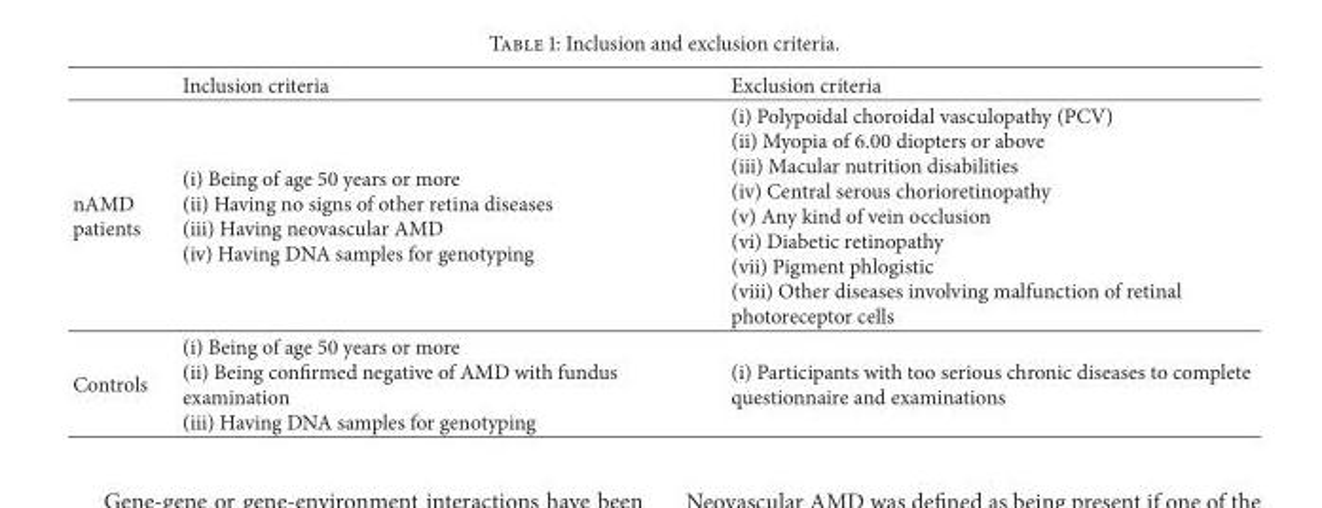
<table><thead><tr><td></td><td>Inclusion criteria</td><td>Exclusion criteria</td></tr></thead><tbody><tr><td>nAMD patients</td><td>(i) Being of age 50 years or more (ii) Having no signs of other retina diseases (iii) Having neovascular AMD (iv) Having DNA samples for genotyping</td><td>(i) Polypoidal choroidal vasculopathy (PCV) (ii) Myopia of 6.00 diopters or above (iii) Macular nutrition disabilities (iv) Central serous chorioretinopathy (v) Any kind of vein occlusion (vi) Diabetic retinopathy (vii) Pigment phlogistic (viii) Other diseases involving malfunction of retinal photoreceptor cells</td></tr><tr><td>Controls</td><td>(i) Being of age 50 years or more (ii) Being confirmed negative of AMD with fundus examination (iii) Having DNA samples for genotyping</td><td>(i) Participants with too serious chronic diseases to complete questionnaire and examinations</td></tr></tbody></table>